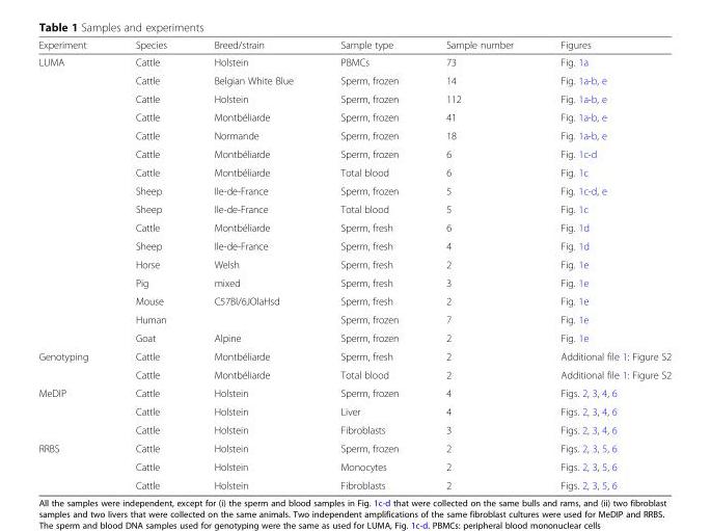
<table><thead><tr><td>Experiment</td><td>Species</td><td>Breed/strain</td><td>Sample type</td><td>Sample number</td><td>Figures</td></tr></thead><tbody><tr><td rowspan="16">LUMA</td><td>Cattle</td><td>Holstein</td><td>PBMCs</td><td>73</td><td>Fig. 1a</td></tr><tr><td>Cattle</td><td>Belgian White Blue</td><td>Sperm, frozen</td><td>14</td><td>Fig. 1a-b, e</td></tr><tr><td>Cattle</td><td>Holstein</td><td>Sperm, frozen</td><td>112</td><td>Fig. 1a-b, e</td></tr><tr><td>Cattle</td><td>Montbéliarde</td><td>Sperm, frozen</td><td>41</td><td>Fig. 1a-b, e</td></tr><tr><td>Cattle</td><td>Normande</td><td>Sperm, frozen</td><td>18</td><td>Fig. 1a-b, e</td></tr><tr><td>Cattle</td><td>Montbéliarde</td><td>Sperm, frozen</td><td>6</td><td>Fig. 1c-d</td></tr><tr><td>Cattle</td><td>Montbéliarde</td><td>Total blood</td><td>6</td><td>Fig. 1c</td></tr><tr><td>Sheep</td><td>Ile-de-France</td><td>Sperm, frozen</td><td>5</td><td>Fig. 1c-d, e</td></tr><tr><td>Sheep</td><td>Ile-de-France</td><td>Total blood</td><td>5</td><td>Fig. 1c</td></tr><tr><td>Cattle</td><td>Montbéliarde</td><td>Sperm, fresh</td><td>6</td><td>Fig. 1d</td></tr><tr><td>Sheep</td><td>Ile-de-France</td><td>Sperm, fresh</td><td>4</td><td>Fig. 1d</td></tr><tr><td>Horse</td><td>Welsh</td><td>Sperm, fresh</td><td>2</td><td>Fig. 1e</td></tr><tr><td>Pig</td><td>mixed</td><td>Sperm, fresh</td><td>3</td><td>Fig. 1e</td></tr><tr><td>Mouse</td><td>C57Bl/6JOlaHsd</td><td>Sperm, fresh</td><td>2</td><td>Fig. 1e</td></tr><tr><td>Human</td><td></td><td>Sperm, frozen</td><td>7</td><td>Fig. 1e</td></tr><tr><td>Goat</td><td>Alpine</td><td>Sperm, frozen</td><td>2</td><td>Fig. 1e</td></tr><tr><td rowspan="2">Genotyping</td><td>Cattle</td><td>Montbéliarde</td><td>Sperm, fresh</td><td>2</td><td>Additional file 1: Figure S2</td></tr><tr><td>Cattle</td><td>Montbéliarde</td><td>Total blood</td><td>2</td><td>Additional file 1: Figure S2</td></tr><tr><td rowspan="3">MeDIP</td><td>Cattle</td><td>Holstein</td><td>Sperm, frozen</td><td>4</td><td>Figs. 2, 3, 4, 6</td></tr><tr><td>Cattle</td><td>Holstein</td><td>Liver</td><td>4</td><td>Figs. 2, 3, 4, 6</td></tr><tr><td>Cattle</td><td>Holstein</td><td>Fibroblasts</td><td>3</td><td>Figs. 2, 3, 4, 6</td></tr><tr><td rowspan="3">RRBS</td><td>Cattle</td><td>Holstein</td><td>Sperm, frozen</td><td>2</td><td>Figs. 2, 3, 5, 6</td></tr><tr><td>Cattle</td><td>Holstein</td><td>Monocytes</td><td>2</td><td>Figs. 2, 3, 5, 6</td></tr><tr><td>Cattle</td><td>Holstein</td><td>Fibroblasts</td><td>2</td><td>Figs. 2, 3, 5, 6</td></tr></tbody></table>